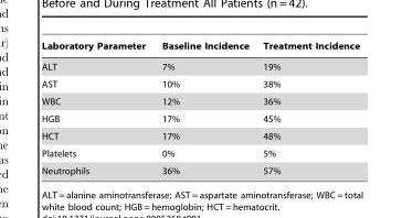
<table><thead><tr><td>Laboratory Parameter</td><td>Baseline Incidence</td><td>Treatment Incidence</td></tr></thead><tbody><tr><td>ALT</td><td>7%</td><td>19%</td></tr><tr><td>AST</td><td>10%</td><td>38%</td></tr><tr><td>WBC</td><td>12%</td><td>36%</td></tr><tr><td>HGB</td><td>17%</td><td>45%</td></tr><tr><td>HCT</td><td>17%</td><td>48%</td></tr><tr><td>Platelets</td><td>0%</td><td>5%</td></tr><tr><td>Neutrophils</td><td>36%</td><td>57%</td></tr></tbody></table>